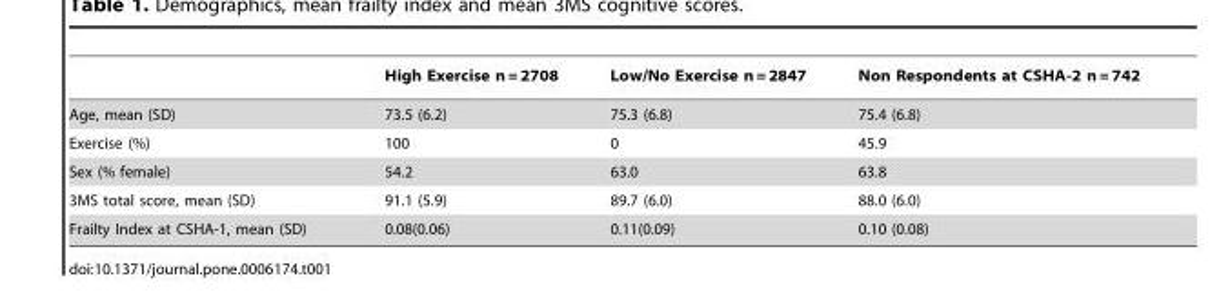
<table><thead><tr><td></td><td>High Exercise n = 2708</td><td>Low/No Exercise n = 2847</td><td>Non Respondents at CSHA-2 n = 742</td></tr></thead><tbody><tr><td>Age, mean (SD)</td><td>73.5 (6.2)</td><td>75.3 (6.8)</td><td>75.4 (6.8)</td></tr><tr><td>Exercise (%)</td><td>100</td><td>0</td><td>45.9</td></tr><tr><td>Sex (% female)</td><td>54.2</td><td>63.0</td><td>63.8</td></tr><tr><td>3MS total score, mean (SD)</td><td>91.1 (5.9)</td><td>89.7 (6.0)</td><td>88.0 (6.0)</td></tr><tr><td>Frailty Index at CSHA-1, mean (SD)</td><td>0.08(0.06)</td><td>0.11(0.09)</td><td>0.10 (0.08)</td></tr></tbody></table>